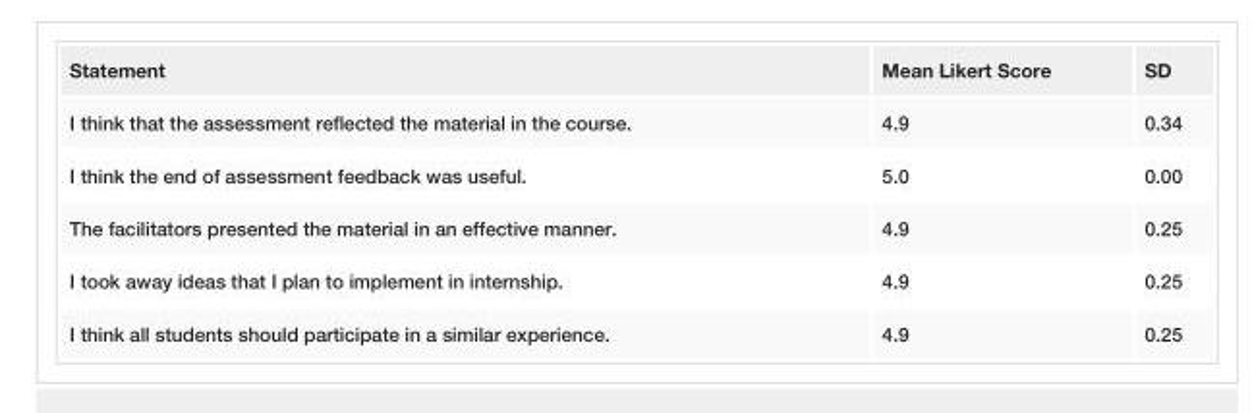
<table><tbody><tr><td>Statement</td><td>Mean Likert Score</td><td>SD</td></tr><tr><td>I think that the assessment reflected the material in the course.</td><td>4.9</td><td>0.34</td></tr><tr><td>I think the end of assessment feedback was useful.</td><td>5.0</td><td>0.00</td></tr><tr><td>The facilitators presented the material in an effective manner.</td><td>4.9</td><td>0.25</td></tr><tr><td>I took away ideas that I plan to implement in internship.</td><td>4.9</td><td>0.25</td></tr><tr><td>I think all students should participate in a similar experience.</td><td>4.9</td><td>0.25</td></tr></tbody></table>